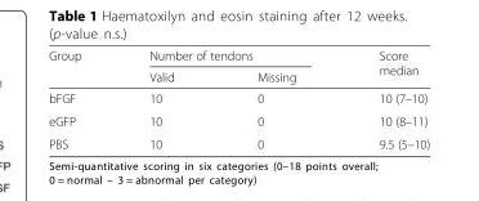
<table><thead><tr><td rowspan="2">Group</td><td colspan="2">Number of tendons</td><td rowspan="2">Score median</td></tr><tr><td>Valid</td><td>Missing</td></tr></thead><tbody><tr><td>bFGF</td><td>10</td><td>0</td><td>10 (7–10)</td></tr><tr><td>eGFP</td><td>10</td><td>0</td><td>10 (8–11)</td></tr><tr><td>PBS</td><td>10</td><td>0</td><td>9.5 (5–10)</td></tr></tbody></table>